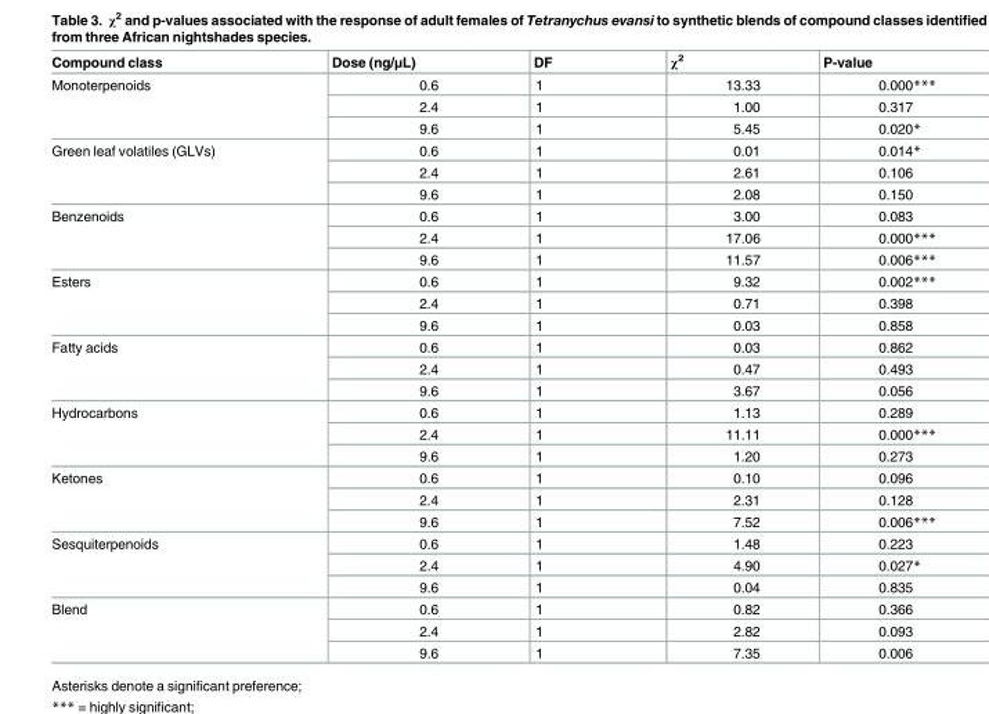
<table><thead><tr><td>Compound class</td><td>Dose (ng/μL)</td><td>DF</td><td>χ<sup>2</sup></td><td>P-value</td></tr></thead><tbody><tr><td rowspan="3">Monoterpenoids</td><td>0.6</td><td>1</td><td>13.33</td><td>0.000***</td></tr><tr><td>2.4</td><td>1</td><td>1.00</td><td>0.317</td></tr><tr><td>9.6</td><td>1</td><td>5.45</td><td>0.020*</td></tr><tr><td rowspan="3">Green leaf volatiles (GLVs)</td><td>0.6</td><td>1</td><td>0.01</td><td>0.014*</td></tr><tr><td>2.4</td><td>1</td><td>2.61</td><td>0.106</td></tr><tr><td>9.6</td><td>1</td><td>2.08</td><td>0.150</td></tr><tr><td rowspan="3">Benzenoids</td><td>0.6</td><td>1</td><td>3.00</td><td>0.083</td></tr><tr><td>2.4</td><td>1</td><td>17.06</td><td>0.000***</td></tr><tr><td>9.6</td><td>1</td><td>11.57</td><td>0.006***</td></tr><tr><td rowspan="3">Esters</td><td>0.6</td><td>1</td><td>9.32</td><td>0.002***</td></tr><tr><td>2.4</td><td>1</td><td>0.71</td><td>0.398</td></tr><tr><td>9.6</td><td>1</td><td>0.03</td><td>0.858</td></tr><tr><td rowspan="3">Fatty acids</td><td>0.6</td><td>1</td><td>0.03</td><td>0.862</td></tr><tr><td>2.4</td><td>1</td><td>0.47</td><td>0.493</td></tr><tr><td>9.6</td><td>1</td><td>3.67</td><td>0.056</td></tr><tr><td rowspan="3">Hydrocarbons</td><td>0.6</td><td>1</td><td>1.13</td><td>0.289</td></tr><tr><td>2.4</td><td>1</td><td>11.11</td><td>0.000***</td></tr><tr><td>9.6</td><td>1</td><td>1.20</td><td>0.273</td></tr><tr><td rowspan="3">Ketones</td><td>0.6</td><td>1</td><td>0.10</td><td>0.096</td></tr><tr><td>2.4</td><td>1</td><td>2.31</td><td>0.128</td></tr><tr><td>9.6</td><td>1</td><td>7.52</td><td>0.006***</td></tr><tr><td rowspan="3">Sesquiterpenoids</td><td>0.6</td><td>1</td><td>1.48</td><td>0.223</td></tr><tr><td>2.4</td><td>1</td><td>4.90</td><td>0.027*</td></tr><tr><td>9.6</td><td>1</td><td>0.04</td><td>0.835</td></tr><tr><td rowspan="3">Blend</td><td>0.6</td><td>1</td><td>0.82</td><td>0.366</td></tr><tr><td>2.4</td><td>1</td><td>2.82</td><td>0.093</td></tr><tr><td>9.6</td><td>1</td><td>7.35</td><td>0.006</td></tr></tbody></table>